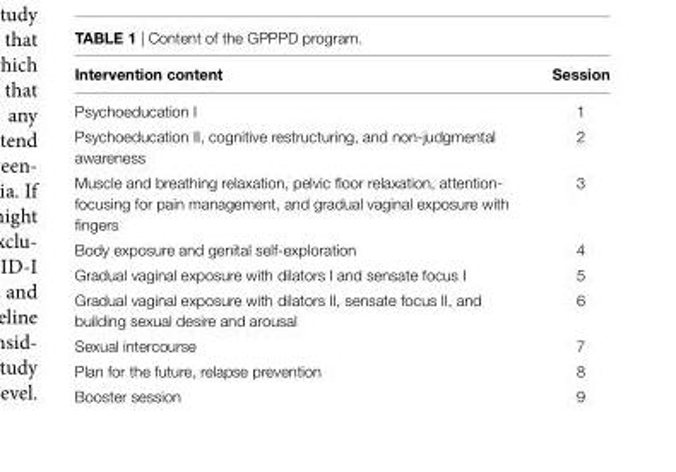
<table><thead><tr><td>Intervention content</td><td>session</td></tr></thead><tbody><tr><td>Psychoeducation I</td><td>1</td></tr><tr><td>Psychoeducation II, cognitive restructuring, and non-judgmental awareness</td><td>2</td></tr><tr><td>Muscle and breathing relaxation, pelvic floor relaxation, attention- focusing for pain management, and gradual vaginal exposure with fingers</td><td>3</td></tr><tr><td>Body exposure and genital self-exploration</td><td>4</td></tr><tr><td>Gradual vaginal exposure with dilators I and sensate focus I</td><td>5</td></tr><tr><td>Gradual vaginal exposure with dilators II, sensate focus II, and building sexual desire and arousal</td><td>6</td></tr><tr><td>Sexual intercourse</td><td>7</td></tr><tr><td>Plan for the future, relapse prevention</td><td>8</td></tr><tr><td>Booster session</td><td>9</td></tr></tbody></table>